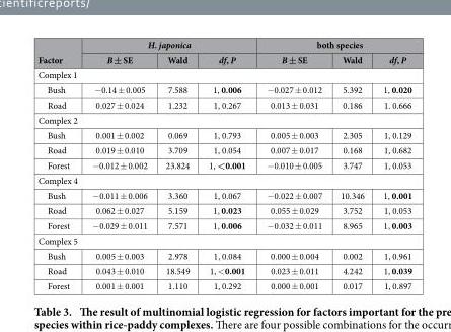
<table><thead><tr><td rowspan="2">Factor</td><td colspan="3">H. japonica</td><td colspan="3">both species</td></tr><tr><td>B ± SE</td><td>Wald</td><td>df, P</td><td>B ± SE</td><td>Wald</td><td>df, P</td></tr></thead><tbody><tr><td colspan="7">Complex 1</td></tr><tr><td>Bush</td><td>− 0.14 ± 0.005</td><td>7.588</td><td>1, 0.006</td><td>− 0.027 ± 0.012</td><td>5.392</td><td>1, 0.020</td></tr><tr><td>Road</td><td>0.027 ± 0.024</td><td>1.232</td><td>1, 0.267</td><td>0.013 ± 0.031</td><td>0.186</td><td>1. 0.666</td></tr><tr><td colspan="7">Complex 2</td></tr><tr><td>Bush</td><td>0.001 ± 0.002</td><td>0.069</td><td>1, 0.793</td><td>0.005 ± 0.003</td><td>2.305</td><td>1, 0.129</td></tr><tr><td>Road</td><td>0.019 ± 0.010</td><td>3.709</td><td>1, 0.054</td><td>0.007 ± 0.017</td><td>0.168</td><td>1, 0.682</td></tr><tr><td>Forest</td><td>− 0.012 ± 0.002</td><td>23.824</td><td>1, &lt;0.001</td><td>− 0.010 ± 0.005</td><td>3.747</td><td>1, 0.053</td></tr><tr><td colspan="7">Complex 4</td></tr><tr><td>Bush</td><td>− 0.011 ± 0.006</td><td>3.360</td><td>1, 0.067</td><td>− 0.022 ± 0.007</td><td>10.346</td><td>1, 0.001</td></tr><tr><td>Road</td><td>0.062 ± 0.027</td><td>5.159</td><td>1, 0.023</td><td>0.055 ± 0.029</td><td>3.752</td><td>1, 0.053</td></tr><tr><td>Forest</td><td>− 0.029 ± 0.011</td><td>7.571</td><td>1, 0.006</td><td>− 0.032 ± 0.011</td><td>8.965</td><td>1, 0.003</td></tr><tr><td colspan="7">Complex 5</td></tr><tr><td>Bush</td><td>0.005 ± 0.003</td><td>2.978</td><td>1, 0.084</td><td>0.000 ± 0.004</td><td>0.002</td><td>1, 0.961</td></tr><tr><td>Road</td><td>0.043 ± 0.010</td><td>18.549</td><td>1, &lt; 0.001</td><td>0.023 ± 0.011</td><td>4.242</td><td>1, 0.039</td></tr><tr><td>Forest</td><td>0.001 ± 0.001</td><td>1.110</td><td>1, 0.292</td><td>0.000 ± 0.001</td><td>0.017</td><td>1, 0.897</td></tr></tbody></table>